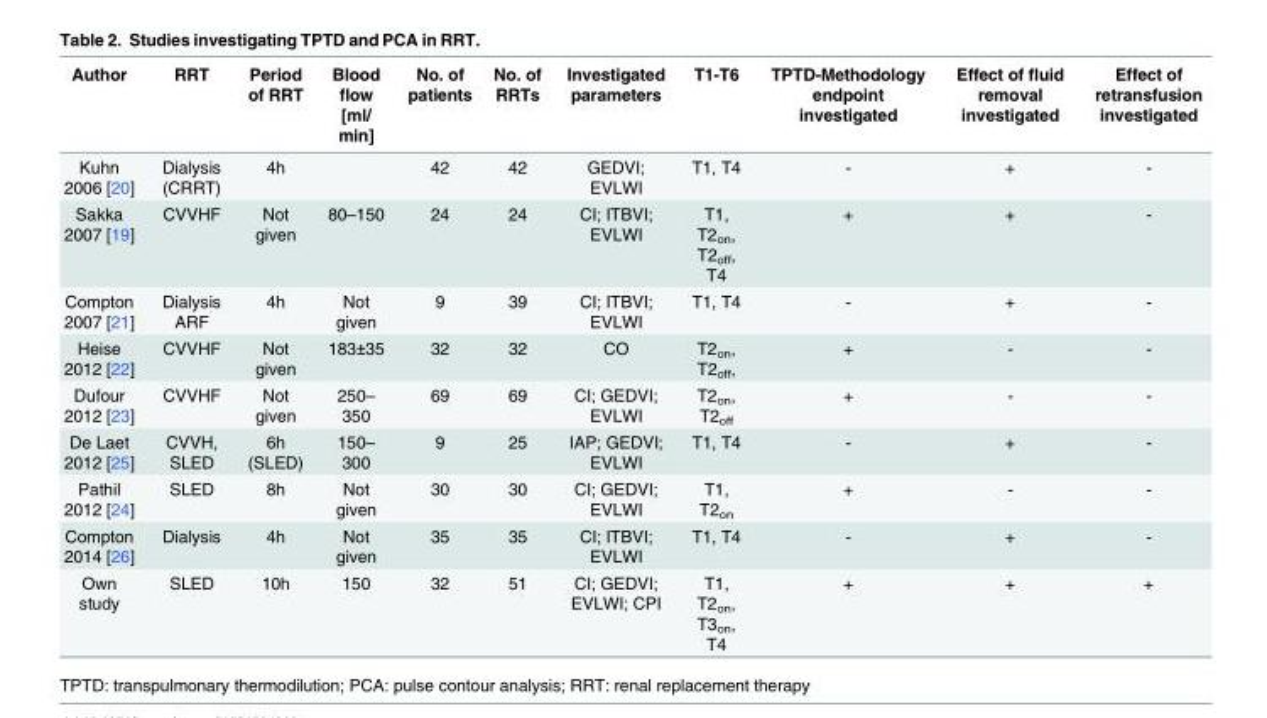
<table><thead><tr><td>Author</td><td>RRT</td><td>Period of RRT</td><td>Blood flow [ml/ min]</td><td>No. of patients</td><td>No. of RRTs</td><td>Investigated parameters</td><td>T1-T6</td><td>TPTD-Methodology endpoint investigated</td><td>Effect of fluid removal investigated</td><td>Effect of retransfusion investigated</td></tr></thead><tbody><tr><td>Kuhn 2006 [20]</td><td>Dialysis (CRRT)</td><td>4h</td><td></td><td>42</td><td>42</td><td>GEDVI; EVLWI</td><td>T1, T4</td><td>-</td><td>+</td><td>-</td></tr><tr><td>Sakka 2007 [19]</td><td>CVVHF</td><td>Not given</td><td>80–150</td><td>24</td><td>24</td><td>CI; ITBVI; EVLWI</td><td>T1, T2<sub>on</sub>, T2<sub>off</sub>, T4</td><td>+</td><td>+</td><td>-</td></tr><tr><td>Compton 2007 [21]</td><td>Dialysis ARF</td><td>4h</td><td>Not given</td><td>9</td><td>39</td><td>CI; ITBVI; EVLWI</td><td>T1, T4</td><td>-</td><td>+</td><td>-</td></tr><tr><td>Heise 2012 [22]</td><td>CVVHF</td><td>Not given</td><td>183±35</td><td>32</td><td>32</td><td>CO</td><td>T2<sub>on</sub>, T2<sub>off</sub>,</td><td>+</td><td>-</td><td>-</td></tr><tr><td>Dufour 2012 [23]</td><td>CVVHF</td><td>Not given</td><td>250– 350</td><td>69</td><td>69</td><td>CI; GEDVI; EVLWI</td><td>T2<sub>on</sub>, T2<sub>off</sub></td><td>+</td><td>-</td><td>-</td></tr><tr><td>De Laet 2012 [25]</td><td>CVVH, SLED</td><td>6h (SLED)</td><td>150– 300</td><td>9</td><td>25</td><td>IAP; GEDVI; EVLWI</td><td>T1, T4</td><td>-</td><td>+</td><td>-</td></tr><tr><td>Pathil 2012 [24]</td><td>SLED</td><td>8h</td><td>Not given</td><td>30</td><td>30</td><td>CI; GEDVI; EVLWI</td><td>T1, T2<sub>on</sub></td><td>+</td><td>-</td><td>-</td></tr><tr><td>Compton 2014 [26]</td><td>Dialysis</td><td>4h</td><td>Not given</td><td>35</td><td>35</td><td>CI; ITBVI; EVLWI</td><td>T1, T4</td><td>-</td><td>+</td><td>-</td></tr><tr><td>Own study</td><td>SLED</td><td>10h</td><td>150</td><td>32</td><td>51</td><td>CI; GEDVI; EVLWI; CPI</td><td>T1, T2<sub>on</sub>, T3<sub>on</sub>, T4</td><td>+</td><td>+</td><td>+</td></tr></tbody></table>